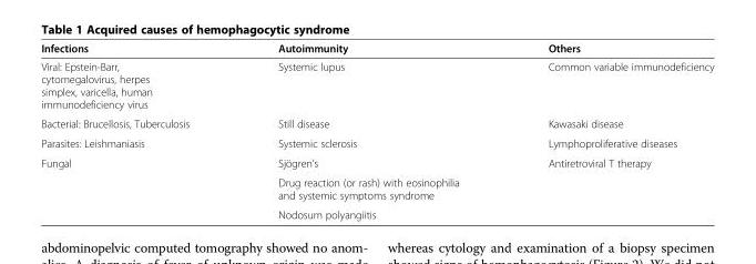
<table><thead><tr><td>Infections</td><td>Autoimmunity</td><td>Others</td></tr></thead><tbody><tr><td>Viral: Epstein-Barr, cytomegalovirus, herpes simplex, varicella, human immunodeficiency virus</td><td>Systemic lupus</td><td>Common variable immunodeficiency</td></tr><tr><td>Bacterial: Brucellosis, Tuberculosis</td><td>Still disease</td><td>Kawasaki disease</td></tr><tr><td>Parasites: Leishmaniasis</td><td>Systemic sclerosis</td><td>Lymphoproliferative diseases</td></tr><tr><td rowspan="3">Fungal</td><td>Sjögren’s</td><td>Antiretroviral T therapy</td></tr><tr><td>Drug reaction (or rash) with eosinophilia and systemic symptoms syndrome</td><td rowspan="2"></td></tr><tr><td>Nodosum polyangiitis</td></tr></tbody></table>